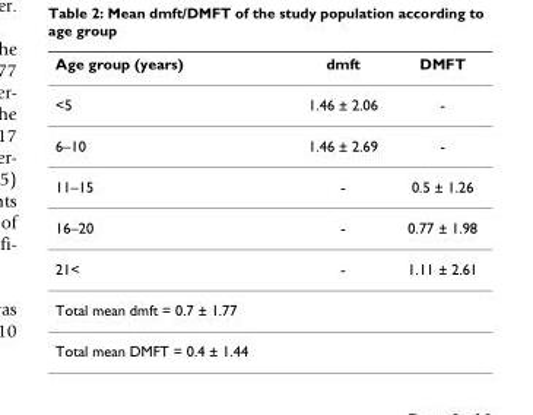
<table><thead><tr><td>Age group (years)</td><td>dmft</td><td>DMFT</td></tr></thead><tbody><tr><td>&lt;5</td><td>1.46 ± 2.06</td><td>-</td></tr><tr><td>6–10</td><td>1.46 ± 2.69</td><td>-</td></tr><tr><td>11–15</td><td>-</td><td>0.5 ± 1.26</td></tr><tr><td>16–20</td><td>-</td><td>0.77 ± 1.98</td></tr><tr><td>21&lt;</td><td>-</td><td>1.11 ± 2.61</td></tr><tr><td colspan="3">Total mean dmft = 0.7 ± 1.77</td></tr><tr><td>Total mean DMFT = 0.4 ± 1.44</td><td></td><td></td></tr></tbody></table>